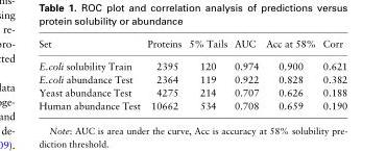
<table><thead><tr><td>Set</td><td>Proteins</td><td>5% Tails</td><td>AUC</td><td>Acc at 58%</td><td>Corr</td></tr></thead><tbody><tr><td>E.coli solubility Train</td><td>2395</td><td>120</td><td>0.974</td><td>0.900</td><td>0.621</td></tr><tr><td>E.coli abundance Test</td><td>2364</td><td>119</td><td>0.922</td><td>0.828</td><td>0.382</td></tr><tr><td>Yeast abundance Test</td><td>4275</td><td>214</td><td>0.707</td><td>0.626</td><td>0.188</td></tr><tr><td>Human abundance Test</td><td>10662</td><td>534</td><td>0.708</td><td>0.659</td><td>0.190</td></tr></tbody></table>